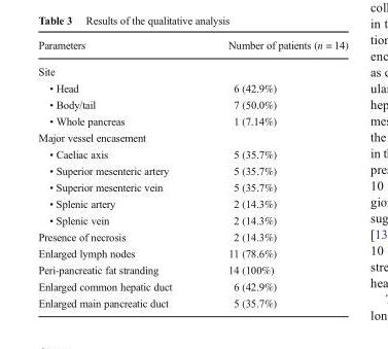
<table><thead><tr><td>Parameters</td><td>Number of patients (n = 14)</td></tr></thead><tbody><tr><td colspan="2">Site</td></tr><tr><td>• Head</td><td>6 (42.9%)</td></tr><tr><td>• Body/tail</td><td>7 (50.0%)</td></tr><tr><td>• Whole pancreas</td><td>1 (7.14%)</td></tr><tr><td colspan="2">Major vessel encasement</td></tr><tr><td>• Caeliac axis</td><td>5 (35.7%)</td></tr><tr><td>• Superior mesenteric artery</td><td>5 (35.7%)</td></tr><tr><td>• Superior mesenteric vein</td><td>5 (35.7%)</td></tr><tr><td>• Splenic artery</td><td>2 (14.3%)</td></tr><tr><td>• Splenic vein</td><td>2 (14.3%)</td></tr><tr><td>Presence of necrosis</td><td>2 (14.3%)</td></tr><tr><td>Enlarged lymph nodes</td><td>11 (78.6%)</td></tr><tr><td>Peri-pancreatic fat stranding</td><td>14 (100%)</td></tr><tr><td>Enlarged common hepatic duct</td><td>6 (42.9%)</td></tr><tr><td>Enlarged main pancreatic duct</td><td>5 (35.7%)</td></tr></tbody></table>